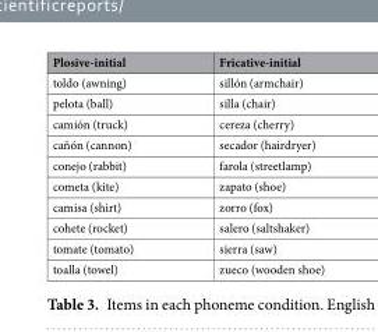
<table><thead><tr><td>Plosive-initial</td><td>Fricative-initial</td></tr></thead><tbody><tr><td>toldo (awning)</td><td>sillón (armchair)</td></tr><tr><td>pelota (ball)</td><td>silla (chair)</td></tr><tr><td>camión (truck)</td><td>cereza (cherry)</td></tr><tr><td>cañón (cannon)</td><td>secador (hairdryer)</td></tr><tr><td>conejo (rabbit)</td><td>farola (streetlamp)</td></tr><tr><td>cometa (kite)</td><td>zapato (shoe)</td></tr><tr><td>camisa (shirt)</td><td>zorro (fox)</td></tr><tr><td>cohete (rocket)</td><td>salero (saltshaker)</td></tr><tr><td>tomate (tomato)</td><td>sierra (saw)</td></tr><tr><td>toalla (towel)</td><td>zueco (wooden shoe)</td></tr></tbody></table>